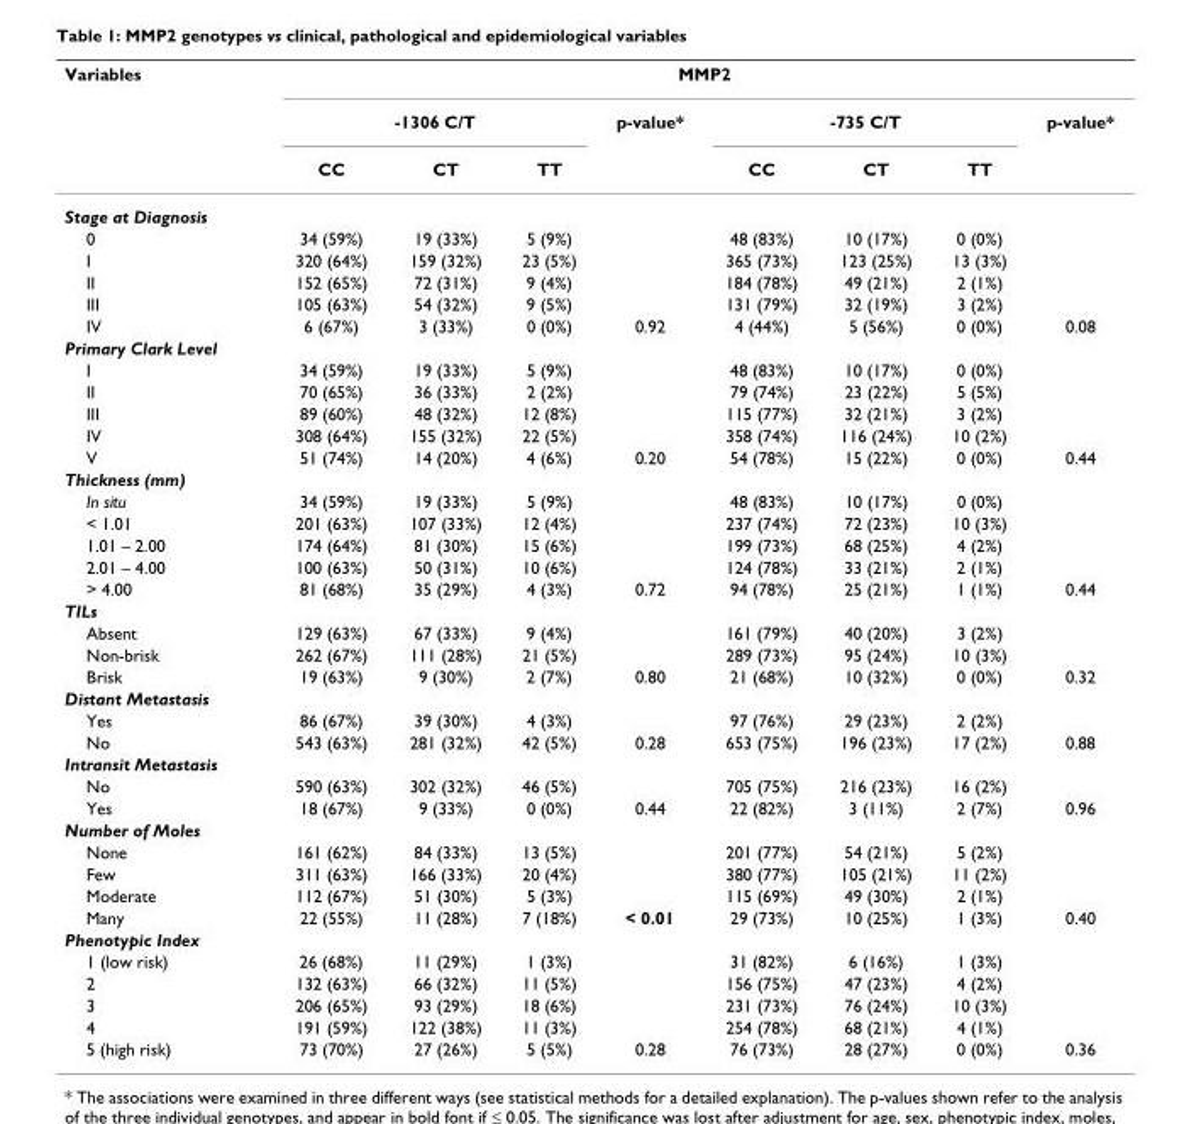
<table><thead><tr><td rowspan="3">Variables</td><td colspan="8">MMP2</td></tr><tr><td colspan="3">-1306 C/T</td><td rowspan="2">p-value*</td><td colspan="3">-735 C/T</td><td rowspan="2">p-value*</td></tr><tr><td>CC</td><td>CT</td><td>TT</td><td>CC</td><td>CT</td><td>TT</td></tr></thead><tbody><tr><td colspan="9">Stage at Diagnosis</td></tr><tr><td>0</td><td>34 (59%)</td><td>19 (33%)</td><td>5 (9%)</td><td></td><td>48 (83%)</td><td>10 (17%)</td><td>0 (0%)</td><td></td></tr><tr><td>I</td><td>320 (64%)</td><td>159 (32%)</td><td>23 (5%)</td><td></td><td>365 (73%)</td><td>123 (25%)</td><td>13 (3%)</td><td></td></tr><tr><td>II</td><td>152 (65%)</td><td>72 (31%)</td><td>9 (4%)</td><td></td><td>184 (78%)</td><td>49 (21%)</td><td>2 (1%)</td><td></td></tr><tr><td>III</td><td>105 (63%)</td><td>54 (32%)</td><td>9 (5%)</td><td></td><td>131 (79%)</td><td>32 (19%)</td><td>3 (2%)</td><td></td></tr><tr><td>IV</td><td>6 (67%)</td><td>3 (33%)</td><td>0 (0%)</td><td>0.92</td><td>4 (44%)</td><td>5 (56%)</td><td>0 (0%)</td><td>0.08</td></tr><tr><td colspan="9">Primary Clark Level</td></tr><tr><td>I</td><td>34 (59%)</td><td>19 (33%)</td><td>5 (9%)</td><td></td><td>48 (83%)</td><td>10 (17%)</td><td>0 (0%)</td><td></td></tr><tr><td>II</td><td>70 (65%)</td><td>36 (33%)</td><td>2 (2%)</td><td></td><td>79 (74%)</td><td>23 (22%)</td><td>5 (5%)</td><td></td></tr><tr><td>III</td><td>89 (60%)</td><td>48 (32%)</td><td>12 (8%)</td><td></td><td>115 (77%)</td><td>32 (21%)</td><td>3 (2%)</td><td></td></tr><tr><td>IV</td><td>308 (64%)</td><td>155 (32%)</td><td>22 (5%)</td><td></td><td>358 (74%)</td><td>116 (24%)</td><td>10 (2%)</td><td></td></tr><tr><td>V</td><td>51 (74%)</td><td>14 (20%)</td><td>4 (6%)</td><td>0.20</td><td>54 (78%)</td><td>15 (22%)</td><td>0 (0%)</td><td>0.44</td></tr><tr><td colspan="9">Thickness (mm)</td></tr><tr><td>In situ</td><td>34 (59%)</td><td>19 (33%)</td><td>5 (9%)</td><td></td><td>48 (83%)</td><td>10 (17%)</td><td>0 (0%)</td><td></td></tr><tr><td>&lt; 1.01</td><td>201 (63%)</td><td>107 (33%)</td><td>12 (4%)</td><td></td><td>237 (74%)</td><td>72 (23%)</td><td>10 (3%)</td><td></td></tr><tr><td>1.01 – 2.00</td><td>174 (64%)</td><td>81 (30%)</td><td>15 (6%)</td><td></td><td>199 (73%)</td><td>68 (25%)</td><td>4 (2%)</td><td></td></tr><tr><td>2.01 – 4.00</td><td>100 (63%)</td><td>50 (31%)</td><td>10 (6%)</td><td></td><td>124 (78%)</td><td>33 (21%)</td><td>2 (1%)</td><td></td></tr><tr><td>&gt; 4.00</td><td>81 (68%)</td><td>35 (29%)</td><td>4 (3%)</td><td>0.72</td><td>94 (78%)</td><td>25 (21%)</td><td>1 (1%)</td><td>0.44</td></tr><tr><td colspan="9">TILs</td></tr><tr><td>Absent</td><td>129 (63%)</td><td>67 (33%)</td><td>9 (4%)</td><td></td><td>161 (79%)</td><td>40 (20%)</td><td>3 (2%)</td><td></td></tr><tr><td>Non-brisk</td><td>262 (67%)</td><td>111 (28%)</td><td>21 (5%)</td><td></td><td>289 (73%)</td><td>95 (24%)</td><td>10 (3%)</td><td></td></tr><tr><td>Brisk</td><td>19 (63%)</td><td>9 (30%)</td><td>2 (7%)</td><td>0.80</td><td>21 (68%)</td><td>10 (32%)</td><td>0 (0%)</td><td>0.32</td></tr><tr><td colspan="9">Distant Metastasis</td></tr><tr><td>Yes</td><td>86 (67%)</td><td>39 (30%)</td><td>4 (3%)</td><td></td><td>97 (76%)</td><td>29 (23%)</td><td>2 (2%)</td><td></td></tr><tr><td>No</td><td>543 (63%)</td><td>281 (32%)</td><td>42 (5%)</td><td>0.28</td><td>653 (75%)</td><td>196 (23%)</td><td>17 (2%)</td><td>0.88</td></tr><tr><td colspan="9">Intransit Metastasis</td></tr><tr><td>No</td><td>590 (63%)</td><td>302 (32%)</td><td>46 (5%)</td><td></td><td>705 (75%)</td><td>216 (23%)</td><td>16 (2%)</td><td></td></tr><tr><td>Yes</td><td>18 (67%)</td><td>9 (33%)</td><td>0 (0%)</td><td>0.44</td><td>22 (82%)</td><td>3 (11%)</td><td>2 (7%)</td><td>0.96</td></tr><tr><td colspan="9">Number of Moles</td></tr><tr><td>None</td><td>161 (62%)</td><td>84 (33%)</td><td>13 (5%)</td><td></td><td>201 (77%)</td><td>54 (21%)</td><td>5 (2%)</td><td></td></tr><tr><td>Few</td><td>311 (63%)</td><td>166 (33%)</td><td>20 (4%)</td><td></td><td>380 (77%)</td><td>105 (21%)</td><td>11 (2%)</td><td></td></tr><tr><td>Moderate</td><td>112 (67%)</td><td>51 (30%)</td><td>5 (3%)</td><td></td><td>115 (69%)</td><td>49 (30%)</td><td>2 (1%)</td><td></td></tr><tr><td>Many</td><td>22 (55%)</td><td>11 (28%)</td><td>7 (18%)</td><td>&lt; 0.01</td><td>29 (73%)</td><td>10 (25%)</td><td>1 (3%)</td><td>0.40</td></tr><tr><td colspan="9">Phenotypic Index</td></tr><tr><td>1 (low risk)</td><td>26 (68%)</td><td>11 (29%)</td><td>1 (3%)</td><td></td><td>31 (82%)</td><td>6 (16%)</td><td>1 (3%)</td><td></td></tr><tr><td>2</td><td>132 (63%)</td><td>66 (32%)</td><td>11 (5%)</td><td></td><td>156 (75%)</td><td>47 (23%)</td><td>4 (2%)</td><td></td></tr><tr><td>3</td><td>206 (65%)</td><td>93 (29%)</td><td>18 (6%)</td><td></td><td>231 (73%)</td><td>76 (24%)</td><td>10 (3%)</td><td></td></tr><tr><td>4</td><td>191 (59%)</td><td>122 (38%)</td><td>11 (3%)</td><td></td><td>254 (78%)</td><td>68 (21%)</td><td>4 (1%)</td><td></td></tr><tr><td>5 (high risk)</td><td>73 (70%)</td><td>27 (26%)</td><td>5 (5%)</td><td>0.28</td><td>76 (73%)</td><td>28 (27%)</td><td>0 (0%)</td><td>0.36</td></tr></tbody></table>